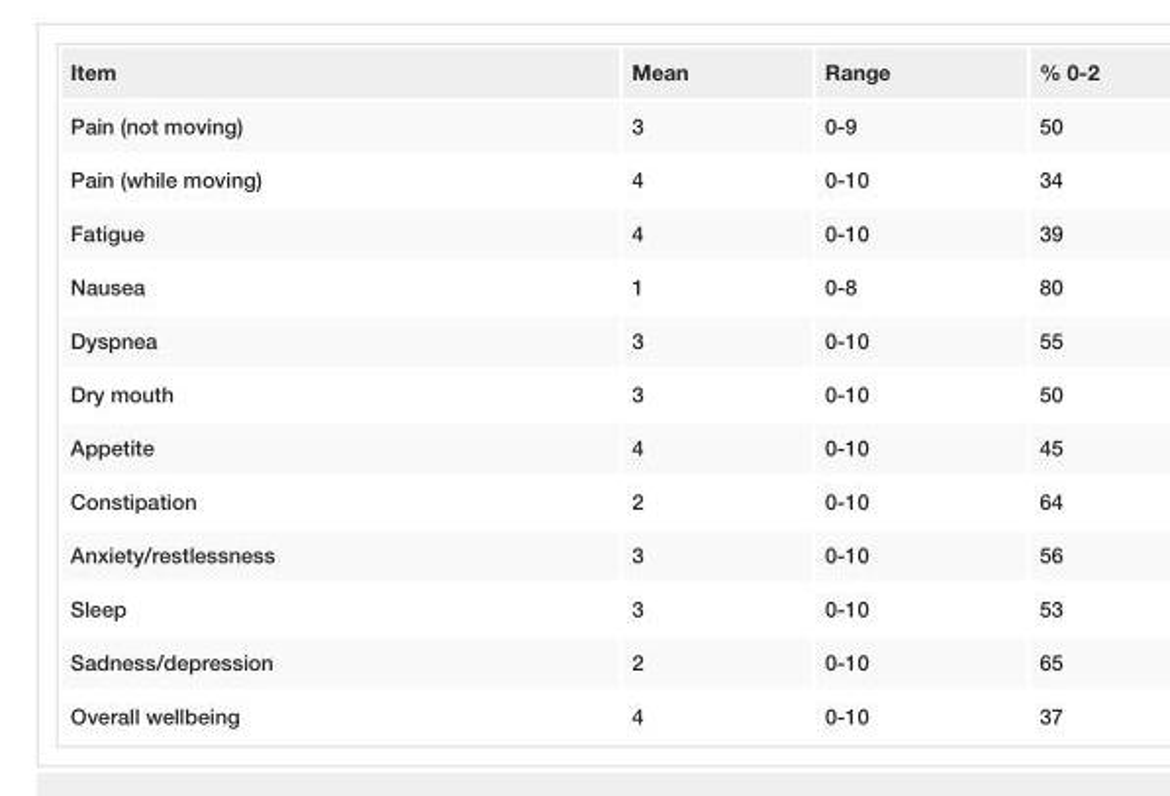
<table><tbody><tr><td>Item</td><td>Mean</td><td>Range</td><td>% 0-2</td></tr><tr><td>Pain (not moving)</td><td>3</td><td>0-9</td><td>50</td></tr><tr><td>Pain (while moving)</td><td>4</td><td>0-10</td><td>34</td></tr><tr><td>Fatigue</td><td>4</td><td>0-10</td><td>39</td></tr><tr><td>Nausea</td><td>1</td><td>0-8</td><td>80</td></tr><tr><td>Dyspnea</td><td>3</td><td>0-10</td><td>55</td></tr><tr><td>Dry mouth</td><td>3</td><td>0-10</td><td>50</td></tr><tr><td>Appetite</td><td>4</td><td>0-10</td><td>45</td></tr><tr><td>Constipation</td><td>2</td><td>0-10</td><td>64</td></tr><tr><td>Anxiety/restlessness</td><td>3</td><td>0-10</td><td>56</td></tr><tr><td>Sleep</td><td>3</td><td>0-10</td><td>53</td></tr><tr><td>Sadness/depression</td><td>2</td><td>0-10</td><td>65</td></tr><tr><td>Overall wellbeing</td><td>4</td><td>0-10</td><td>37</td></tr></tbody></table>